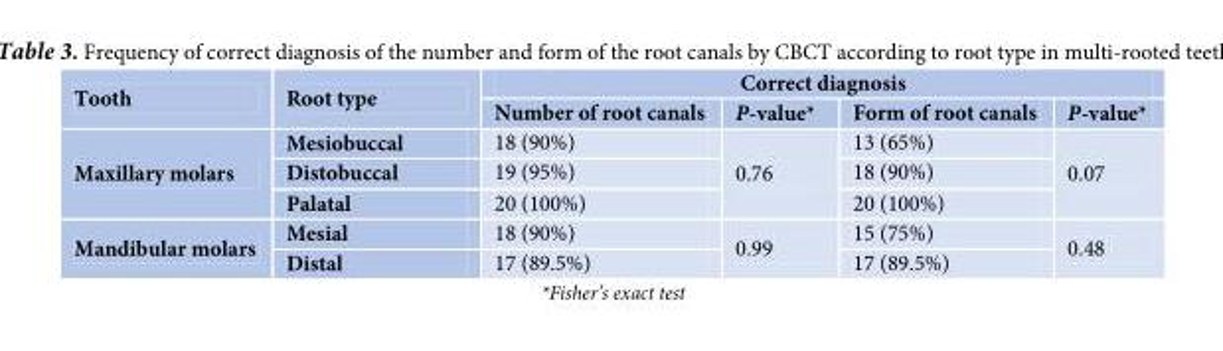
<table><thead><tr><td rowspan="2">Tooth</td><td rowspan="2">Root type</td><td colspan="4">Correct diagnosis</td></tr><tr><td>Number of root canals</td><td>P-value*</td><td>Form of root canals</td><td>P-value*</td></tr></thead><tbody><tr><td rowspan="3">Maxillary molars</td><td>Mesiobuccal</td><td>18 (90%)</td><td rowspan="3">0.76</td><td>13 (65%)</td><td rowspan="3">0.07</td></tr><tr><td>Distobuccal</td><td>19 (95%)</td><td>18 (90%)</td></tr><tr><td>Palatal</td><td>20 (100%)</td><td>20 (100%)</td></tr><tr><td rowspan="2">Mandibular molars</td><td>Mesial</td><td>18 (90%)</td><td rowspan="2">0.99</td><td>15 (75%)</td><td rowspan="2">0.48</td></tr><tr><td>Distal</td><td>17 (89.5%)</td><td>17 (89.5%)</td></tr></tbody></table>